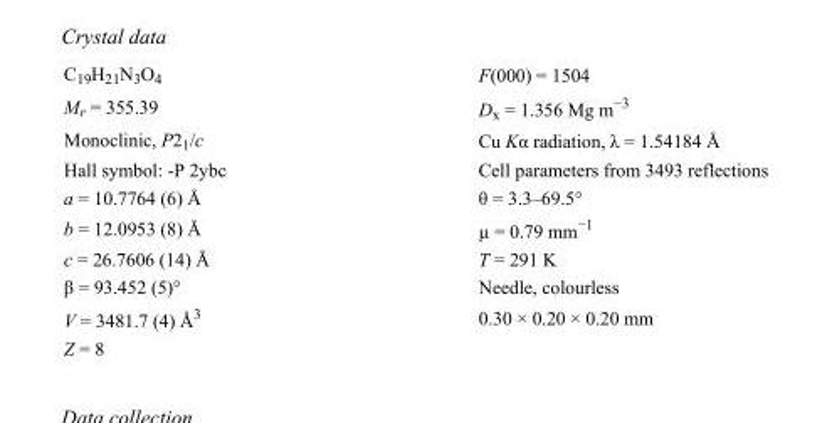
<table><tbody><tr><td>C<sub>19</sub>H<sub>21</sub>N<sub>3</sub>O<sub>4</sub></td><td>F(000) = 1504</td></tr><tr><td>M<sub>r</sub> = 355.39</td><td>D<sub>x</sub> = 1.356 Mg m<sup>−3</sup></td></tr><tr><td>Monoclinic, P2<sub>1</sub>/c</td><td>Cu Kα radiation, λ = 1.54184 Å</td></tr><tr><td>Hall symbol: -P 2ybc</td><td>Cell parameters from 3493 reflections</td></tr><tr><td>a = 10.7764 (6) Å</td><td>θ = 3.3–69.5°</td></tr><tr><td>b = 12.0953 (8) Å</td><td>µ = 0.79 mm<sup>−1</sup></td></tr><tr><td>c = 26.7606 (14) Å</td><td>T = 291 K</td></tr><tr><td>β = 93.452 (5)°</td><td>Needle, colourless</td></tr><tr><td>V = 3481.7 (4) Å<sup>3</sup></td><td>0.30 × 0.20 × 0.20 mm</td></tr><tr><td>Z = 8</td><td></td></tr></tbody></table>